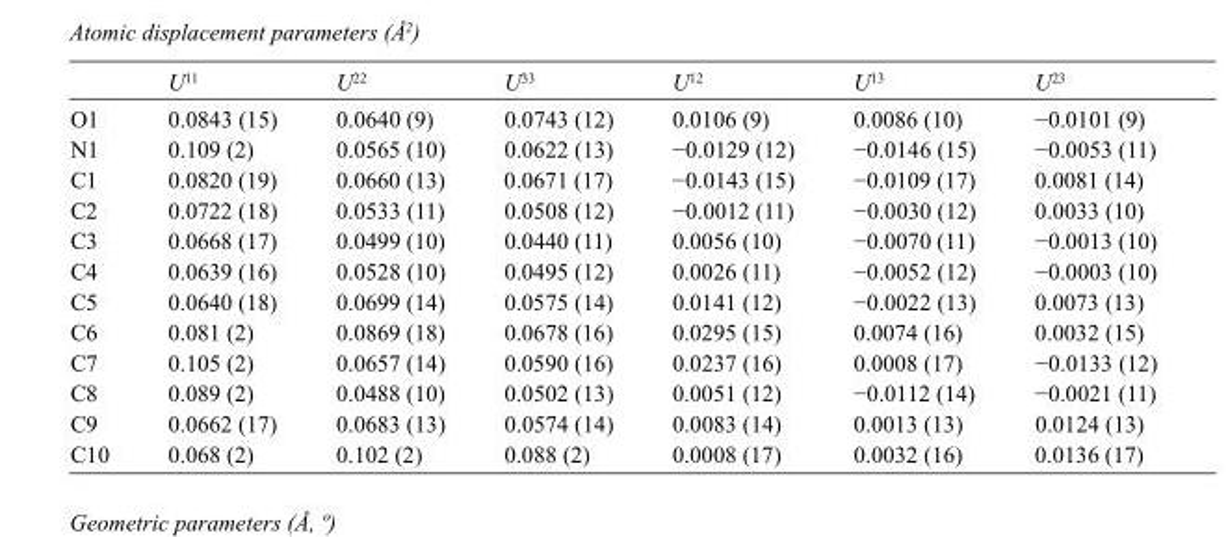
<table><thead><tr><td></td><td>U<sup>11</sup></td><td>U<sup>22</sup></td><td>U<sup>33</sup></td><td>U<sup>12</sup></td><td>U<sup>13</sup></td><td>U<sup>23</sup></td></tr></thead><tbody><tr><td>O1</td><td>0.0843 (15)</td><td>0.0640 (9)</td><td>0.0743 (12)</td><td>0.0106 (9)</td><td>0.0086 (10)</td><td>−0.0101 (9)</td></tr><tr><td>N1</td><td>0.109 (2)</td><td>0.0565 (10)</td><td>0.0622 (13)</td><td>−0.0129 (12)</td><td>−0.0146 (15)</td><td>−0.0053 (11)</td></tr><tr><td>C1</td><td>0.0820 (19)</td><td>0.0660 (13)</td><td>0.0671 (17)</td><td>−0.0143 (15)</td><td>−0.0109 (17)</td><td>0.0081 (14)</td></tr><tr><td>C2</td><td>0.0722 (18)</td><td>0.0533 (11)</td><td>0.0508 (12)</td><td>−0.0012 (11)</td><td>−0.0030 (12)</td><td>0.0033 (10)</td></tr><tr><td>C3</td><td>0.0668 (17)</td><td>0.0499 (10)</td><td>0.0440 (11)</td><td>0.0056 (10)</td><td>−0.0070 (11)</td><td>−0.0013 (10)</td></tr><tr><td>C4</td><td>0.0639 (16)</td><td>0.0528 (10)</td><td>0.0495 (12)</td><td>0.0026 (11)</td><td>−0.0052 (12)</td><td>−0.0003 (10)</td></tr><tr><td>C5</td><td>0.0640 (18)</td><td>0.0699 (14)</td><td>0.0575 (14)</td><td>0.0141 (12)</td><td>−0.0022 (13)</td><td>0.0073 (13)</td></tr><tr><td>C6</td><td>0.081 (2)</td><td>0.0869 (18)</td><td>0.0678 (16)</td><td>0.0295 (15)</td><td>0.0074 (16)</td><td>0.0032 (15)</td></tr><tr><td>C7</td><td>0.105 (2)</td><td>0.0657 (14)</td><td>0.0590 (16)</td><td>0.0237 (16)</td><td>0.0008 (17)</td><td>−0.0133 (12)</td></tr><tr><td>C8</td><td>0.089 (2)</td><td>0.0488 (10)</td><td>0.0502 (13)</td><td>0.0051 (12)</td><td>−0.0112 (14)</td><td>−0.0021 (11)</td></tr><tr><td>C9</td><td>0.0662 (17)</td><td>0.0683 (13)</td><td>0.0574 (14)</td><td>0.0083 (14)</td><td>0.0013 (13)</td><td>0.0124 (13)</td></tr><tr><td>C10</td><td>0.068 (2)</td><td>0.102 (2)</td><td>0.088 (2)</td><td>0.0008 (17)</td><td>0.0032 (16)</td><td>0.0136 (17)</td></tr></tbody></table>